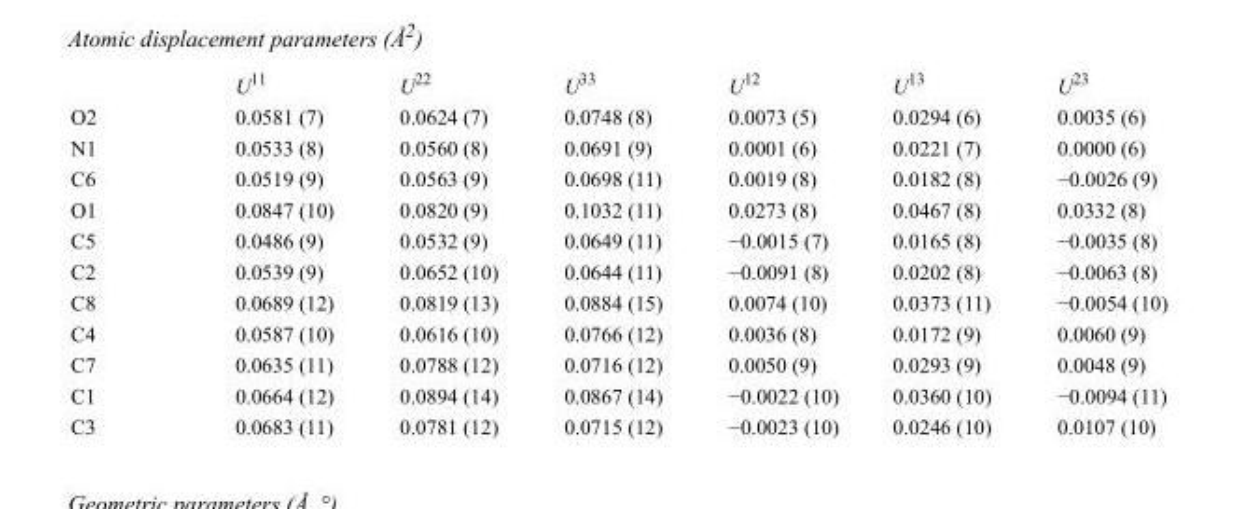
<table><thead><tr><td></td><td>U<sup>11</sup></td><td>U<sup>22</sup></td><td>U<sup>33</sup></td><td>U<sup>12</sup></td><td>U<sup>13</sup></td><td>U<sup>23</sup></td></tr></thead><tbody><tr><td>O2</td><td>0.0581 (7)</td><td>0.0624 (7)</td><td>0.0748 (8)</td><td>0.0073 (5)</td><td>0.0294 (6)</td><td>0.0035 (6)</td></tr><tr><td>N1</td><td>0.0533 (8)</td><td>0.0560 (8)</td><td>0.0691 (9)</td><td>0.0001 (6)</td><td>0.0221 (7)</td><td>0.0000 (6)</td></tr><tr><td>C6</td><td>0.0519 (9)</td><td>0.0563 (9)</td><td>0.0698 (11)</td><td>0.0019 (8)</td><td>0.0182 (8)</td><td>−0.0026 (9)</td></tr><tr><td>O1</td><td>0.0847 (10)</td><td>0.0820 (9)</td><td>0.1032 (11)</td><td>0.0273 (8)</td><td>0.0467 (8)</td><td>0.0332 (8)</td></tr><tr><td>C5</td><td>0.0486 (9)</td><td>0.0532 (9)</td><td>0.0649 (11)</td><td>−0.0015 (7)</td><td>0.0165 (8)</td><td>−0.0035 (8)</td></tr><tr><td>C2</td><td>0.0539 (9)</td><td>0.0652 (10)</td><td>0.0644 (11)</td><td>−0.0091 (8)</td><td>0.0202 (8)</td><td>−0.0063 (8)</td></tr><tr><td>C8</td><td>0.0689 (12)</td><td>0.0819 (13)</td><td>0.0884 (15)</td><td>0.0074 (10)</td><td>0.0373 (11)</td><td>−0.0054 (10)</td></tr><tr><td>C4</td><td>0.0587 (10)</td><td>0.0616 (10)</td><td>0.0766 (12)</td><td>0.0036 (8)</td><td>0.0172 (9)</td><td>0.0060 (9)</td></tr><tr><td>C7</td><td>0.0635 (11)</td><td>0.0788 (12)</td><td>0.0716 (12)</td><td>0.0050 (9)</td><td>0.0293 (9)</td><td>0.0048 (9)</td></tr><tr><td>C1</td><td>0.0664 (12)</td><td>0.0894 (14)</td><td>0.0867 (14)</td><td>−0.0022 (10)</td><td>0.0360 (10)</td><td>−0.0094 (11)</td></tr><tr><td>C3</td><td>0.0683 (11)</td><td>0.0781 (12)</td><td>0.0715 (12)</td><td>−0.0023 (10)</td><td>0.0246 (10)</td><td>0.0107 (10)</td></tr></tbody></table>